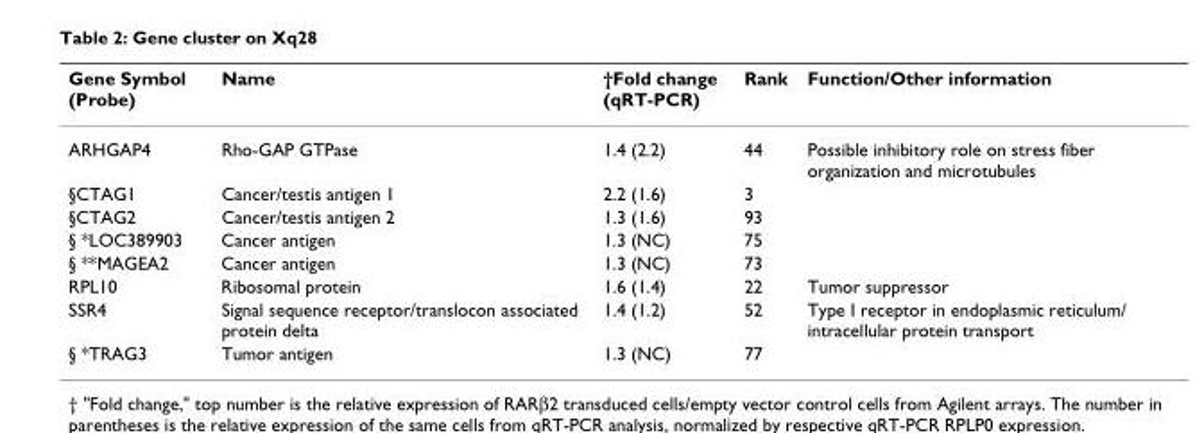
<table><thead><tr><td>Gene Symbol (Probe)</td><td>Name</td><td>†Fold change (qRT-PCR)</td><td>Rank</td><td>Function/Other information</td></tr></thead><tbody><tr><td>ARHGAP4</td><td>Rho-GAP GTPase</td><td>1.4 (2.2)</td><td>44</td><td>Possible inhibitory role on stress fiber organization and microtubules</td></tr><tr><td>§CTAG1</td><td>Cancer/testis antigen 1</td><td>2.2 (1.6)</td><td>3</td><td></td></tr><tr><td>§CTAG2</td><td>Cancer/testis antigen 2</td><td>1.3 (1.6)</td><td>93</td><td></td></tr><tr><td>§ *LOC389903</td><td>Cancer antigen</td><td>1.3 (NC)</td><td>75</td><td></td></tr><tr><td>§ **MAGEA2</td><td>Cancer antigen</td><td>1.3 (NC)</td><td>73</td><td></td></tr><tr><td>RPL10</td><td>Ribosomal protein</td><td>1.6 (1.4)</td><td>22</td><td>Tumor suppressor</td></tr><tr><td>SSR4</td><td>Signal sequence receptor/translocon associated protein delta</td><td>1.4 (1.2)</td><td>52</td><td>Type I receptor in endoplasmic reticulum/ intracellular protein transport</td></tr><tr><td>§ *TRAG3</td><td>Tumor antigen</td><td>1.3 (NC)</td><td>77</td><td></td></tr></tbody></table>